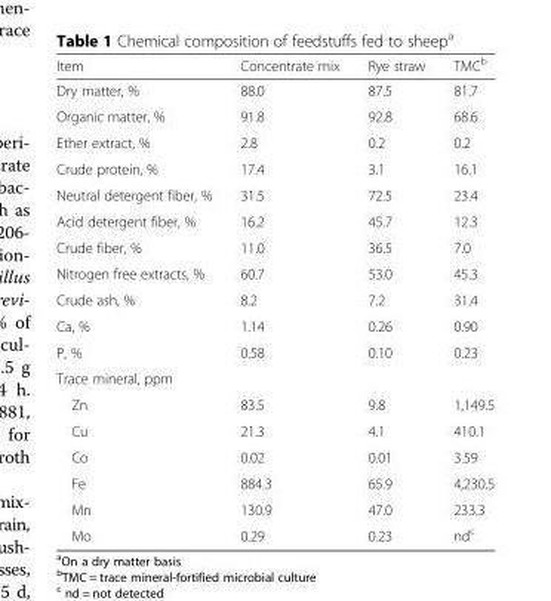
<table><thead><tr><td>Item</td><td>Concentrate mix</td><td>Rye straw</td><td>TMC<sup>b</sup></td></tr></thead><tbody><tr><td>Dry matter, %</td><td>88.0</td><td>87.5</td><td>81.7</td></tr><tr><td>Organic matter, %</td><td>91.8</td><td>92.8</td><td>68.6</td></tr><tr><td>Ether extract, %</td><td>2.8</td><td>0.2</td><td>0.2</td></tr><tr><td>Crude protein, %</td><td>17.4</td><td>3.1</td><td>16.1</td></tr><tr><td>Neutral detergent fiber, %</td><td>31.5</td><td>72.5</td><td>23.4</td></tr><tr><td>Acid detergent fiber, %</td><td>16.2</td><td>45.7</td><td>12.3</td></tr><tr><td>Crude fiber, %</td><td>11.0</td><td>36.5</td><td>7.0</td></tr><tr><td>Nitrogen free extracts, %</td><td>60.7</td><td>53.0</td><td>45.3</td></tr><tr><td>Crude ash, %</td><td>8.2</td><td>7.2</td><td>31.4</td></tr><tr><td>Ca, %</td><td>1.14</td><td>0.26</td><td>0.90</td></tr><tr><td>P, %</td><td>0.58</td><td>0.10</td><td>0.23</td></tr><tr><td colspan="4">Trace mineral, ppm</td></tr><tr><td>Zn</td><td>83.5</td><td>9.8</td><td>1,149.5</td></tr><tr><td>Cu</td><td>21.3</td><td>4.1</td><td>410.1</td></tr><tr><td>Co</td><td>0.02</td><td>0.01</td><td>3.59</td></tr><tr><td>Fe</td><td>884.3</td><td>65.9</td><td>4,230.5</td></tr><tr><td>Mn</td><td>130.9</td><td>47.0</td><td>233.3</td></tr><tr><td>Mo</td><td>0.29</td><td>0.23</td><td>nd<sup>c</sup></td></tr></tbody></table>